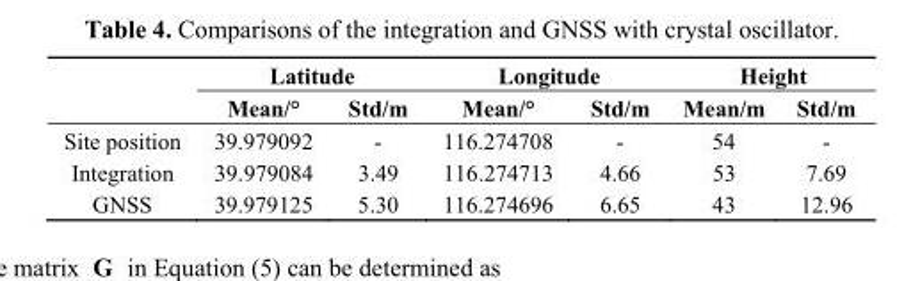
<table><thead><tr><td rowspan="2"></td><td colspan="2">Latitude</td><td colspan="2">Longitude</td><td colspan="2">Height</td></tr><tr><td>Mean/°</td><td>Std/m</td><td>Mean/°</td><td>Std/m</td><td>Mean/m</td><td>Std/m</td></tr></thead><tbody><tr><td>Site position</td><td>39.979092</td><td>-</td><td>116.274708</td><td>-</td><td>54</td><td>-</td></tr><tr><td>Integration</td><td>39.979084</td><td>3.49</td><td>116.274713</td><td>4.66</td><td>53</td><td>7.69</td></tr><tr><td>GNSS</td><td>39.979125</td><td>5.30</td><td>116.274696</td><td>6.65</td><td>43</td><td>12.96</td></tr></tbody></table>